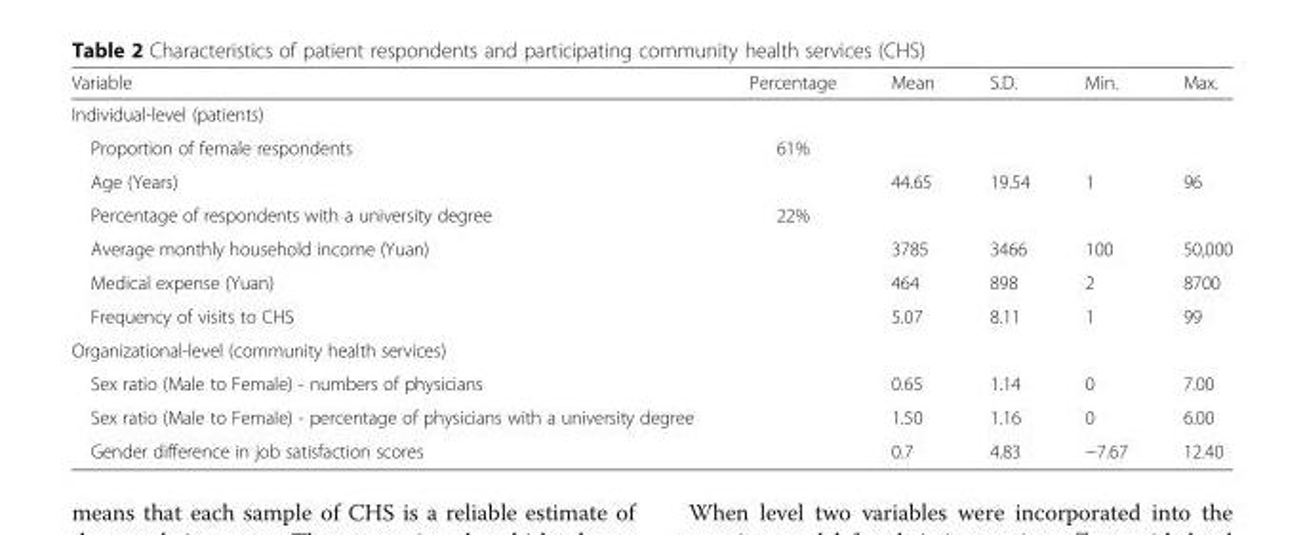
<table><thead><tr><td>Variable</td><td>Percentage</td><td>Mean</td><td>S.D.</td><td>Min.</td><td>Max.</td></tr></thead><tbody><tr><td colspan="6">Individual-level (patients)</td></tr><tr><td>Proportion of female respondents</td><td>61%</td><td></td><td></td><td></td><td></td></tr><tr><td>Age (Years)</td><td></td><td>44.65</td><td>19.54</td><td>1</td><td>96</td></tr><tr><td>Percentage of respondents with a university degree</td><td>22%</td><td></td><td></td><td></td><td></td></tr><tr><td>Average monthly household income (Yuan)</td><td></td><td>3785</td><td>3466</td><td>100</td><td>50,000</td></tr><tr><td>Medical expense (Yuan)</td><td></td><td>464</td><td>898</td><td>2</td><td>8700</td></tr><tr><td>Frequency of visits to CHS</td><td></td><td>5.07</td><td>8.11</td><td>1</td><td>99</td></tr><tr><td colspan="6">Organizational-level (community health services)</td></tr><tr><td>Sex ratio (Male to Female) - numbers of physicians</td><td></td><td>0.65</td><td>1.14</td><td>0</td><td>7.00</td></tr><tr><td>Sex ratio (Male to Female) - percentage of physicians with a university degree</td><td></td><td>1.50</td><td>1.16</td><td>0</td><td>6.00</td></tr><tr><td>Gender difference in job satisfaction scores</td><td></td><td>0.7</td><td>4.83</td><td>−7.67</td><td>12.40</td></tr></tbody></table>